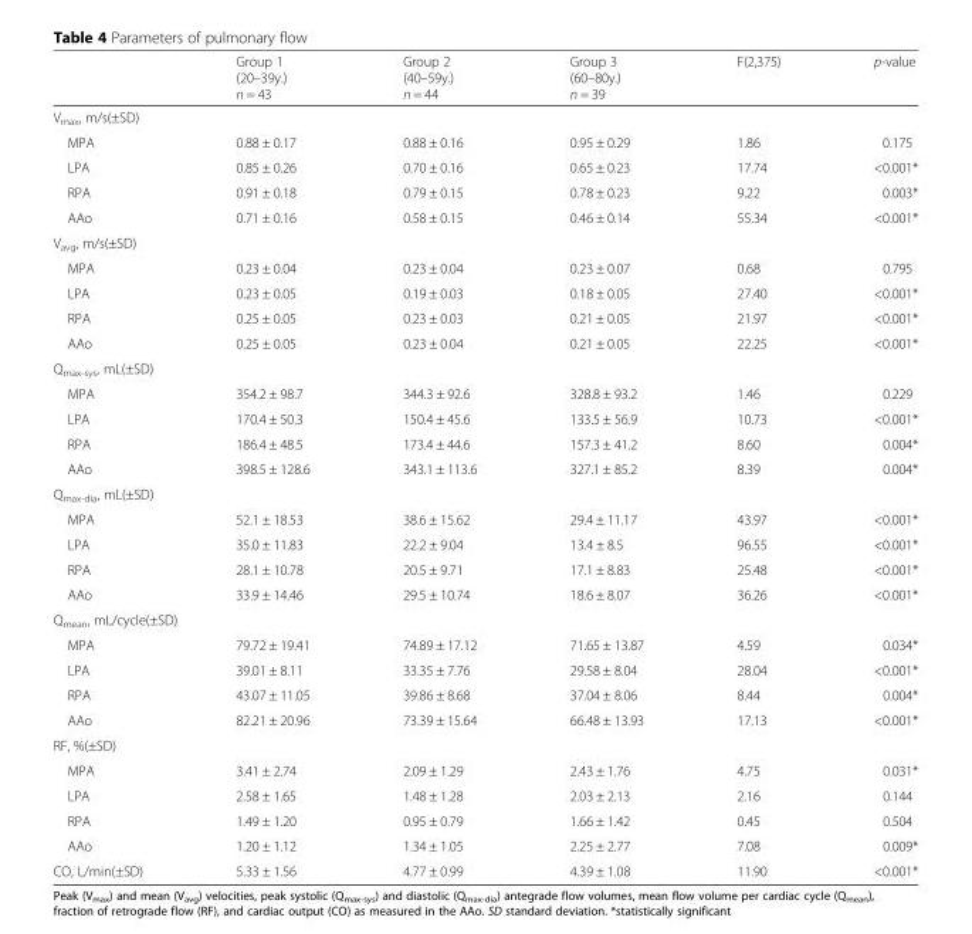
<table><thead><tr><td></td><td>Group 1 (20–39y.) n = 43</td><td>Group 2 (40–59y.) n = 44</td><td>Group 3 (60–80y.) n = 39</td><td>F(2,375)</td><td>p-value</td></tr></thead><tbody><tr><td colspan="6">V<sub>max</sub>, m/s(±SD)</td></tr><tr><td>MPA</td><td>0.88 ± 0.17</td><td>0.88 ± 0.16</td><td>0.95 ± 0.29</td><td>1.86</td><td>0.175</td></tr><tr><td>LPA</td><td>0.85 ± 0.26</td><td>0.70 ± 0.16</td><td>0.65 ± 0.23</td><td>17.74</td><td>&lt;0.001*</td></tr><tr><td>RPA</td><td>0.91 ± 0.18</td><td>0.79 ± 0.15</td><td>0.78 ± 0.23</td><td>9.22</td><td>0.003*</td></tr><tr><td>AAo</td><td>0.71 ± 0.16</td><td>0.58 ± 0.15</td><td>0.46 ± 0.14</td><td>55.34</td><td>&lt;0.001*</td></tr><tr><td colspan="6">V<sub>avg</sub>, m/s(±SD)</td></tr><tr><td>MPA</td><td>0.23 ± 0.04</td><td>0.23 ± 0.04</td><td>0.23 ± 0.07</td><td>0.68</td><td>0.795</td></tr><tr><td>LPA</td><td>0.23 ± 0.05</td><td>0.19 ± 0.03</td><td>0.18 ± 0.05</td><td>27.40</td><td>&lt;0.001*</td></tr><tr><td>RPA</td><td>0.25 ± 0.05</td><td>0.23 ± 0.03</td><td>0.21 ± 0.05</td><td>21.97</td><td>&lt;0.001*</td></tr><tr><td>AAo</td><td>0.25 ± 0.05</td><td>0.23 ± 0.04</td><td>0.21 ± 0.05</td><td>22.25</td><td>&lt;0.001*</td></tr><tr><td colspan="6">Q<sub>max-sys</sub>, mL(±SD)</td></tr><tr><td>MPA</td><td>354.2 ± 98.7</td><td>344.3 ± 92.6</td><td>328.8 ± 93.2</td><td>1.46</td><td>0.229</td></tr><tr><td>LPA</td><td>170.4 ± 50.3</td><td>150.4 ± 45.6</td><td>133.5 ± 56.9</td><td>10.73</td><td>&lt;0.001*</td></tr><tr><td>RPA</td><td>186.4 ± 48.5</td><td>173.4 ± 44.6</td><td>157.3 ± 41.2</td><td>8.60</td><td>0.004*</td></tr><tr><td>AAo</td><td>398.5 ± 128.6</td><td>343.1 ± 113.6</td><td>327.1 ± 85.2</td><td>8.39</td><td>0.004*</td></tr><tr><td colspan="6">Q<sub>max-dia</sub>, mL(±SD)</td></tr><tr><td>MPA</td><td>52.1 ± 18.53</td><td>38.6 ± 15.62</td><td>29.4 ± 11.17</td><td>43.97</td><td>&lt;0.001*</td></tr><tr><td>LPA</td><td>35.0 ± 11.83</td><td>22.2 ± 9.04</td><td>13.4 ± 8.5</td><td>96.55</td><td>&lt;0.001*</td></tr><tr><td>RPA</td><td>28.1 ± 10.78</td><td>20.5 ± 9.71</td><td>17.1 ± 8.83</td><td>25.48</td><td>&lt;0.001*</td></tr><tr><td>AAo</td><td>33.9 ± 14.46</td><td>29.5 ± 10.74</td><td>18.6 ± 8.07</td><td>36.26</td><td>&lt;0.001*</td></tr><tr><td colspan="6">Q<sub>mean</sub>, mL/cycle(±SD)</td></tr><tr><td>MPA</td><td>79.72 ± 19.41</td><td>74.89 ± 17.12</td><td>71.65 ± 13.87</td><td>4.59</td><td>0.034*</td></tr><tr><td>LPA</td><td>39.01 ± 8.11</td><td>33.35 ± 7.76</td><td>29.58 ± 8.04</td><td>28.04</td><td>&lt;0.001*</td></tr><tr><td>RPA</td><td>43.07 ± 11.05</td><td>39.86 ± 8.68</td><td>37.04 ± 8.06</td><td>8.44</td><td>0.004*</td></tr><tr><td>AAo</td><td>82.21 ± 20.96</td><td>73.39 ± 15.64</td><td>66.48 ± 13.93</td><td>17.13</td><td>&lt;0.001*</td></tr><tr><td colspan="6">RF, %(±SD)</td></tr><tr><td>MPA</td><td>3.41 ± 2.74</td><td>2.09 ± 1.29</td><td>2.43 ± 1.76</td><td>4.75</td><td>0.031*</td></tr><tr><td>LPA</td><td>2.58 ± 1.65</td><td>1.48 ± 1.28</td><td>2.03 ± 2.13</td><td>2.16</td><td>0.144</td></tr><tr><td>RPA</td><td>1.49 ± 1.20</td><td>0.95 ± 0.79</td><td>1.66 ± 1.42</td><td>0.45</td><td>0.504</td></tr><tr><td>AAo</td><td>1.20 ± 1.12</td><td>1.34 ± 1.05</td><td>2.25 ± 2.77</td><td>7.08</td><td>0.009*</td></tr><tr><td>CO, L/min(±SD)</td><td>5.33 ± 1.56</td><td>4.77 ± 0.99</td><td>4.39 ± 1.08</td><td>11.90</td><td>&lt;0.001*</td></tr></tbody></table>